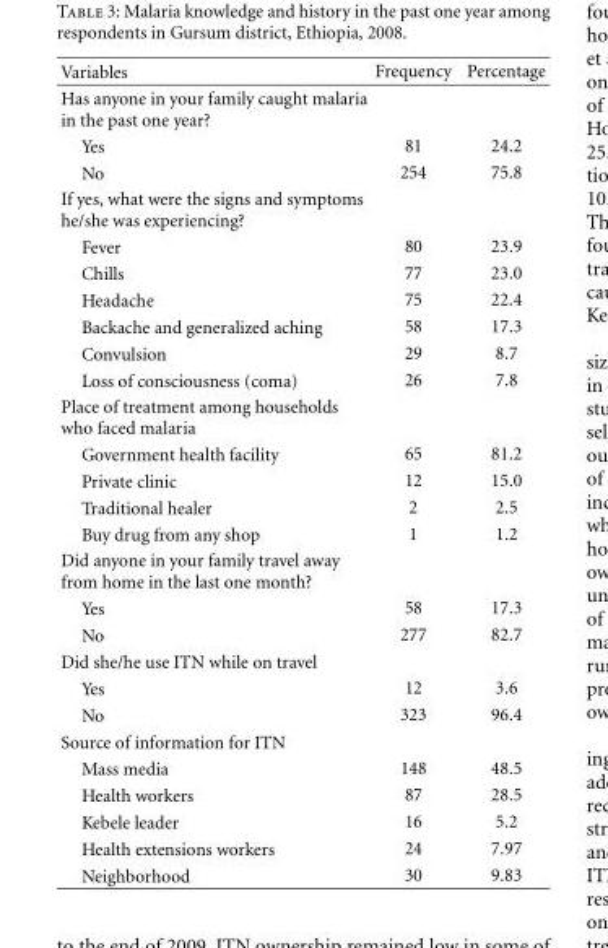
<table><thead><tr><td>Variables</td><td>Frequency</td><td>Percentage</td></tr></thead><tbody><tr><td colspan="3">Has anyone in your family caught malaria in the past one year?</td></tr><tr><td>Yes</td><td>81</td><td>24.2</td></tr><tr><td>No</td><td>254</td><td>75.8</td></tr><tr><td colspan="3">If yes, what were the signs and symptoms he/she was experiencing?</td></tr><tr><td>Fever</td><td>80</td><td>23.9</td></tr><tr><td>Chills</td><td>77</td><td>23.0</td></tr><tr><td>Headache</td><td>75</td><td>22.4</td></tr><tr><td>Backache and generalized aching</td><td>58</td><td>17.3</td></tr><tr><td>Convulsion</td><td>29</td><td>8.7</td></tr><tr><td>Loss of consciousness (coma)</td><td>26</td><td>7.8</td></tr><tr><td colspan="3">Place of treatment among households who faced malaria</td></tr><tr><td>Government health facility</td><td>65</td><td>81.2</td></tr><tr><td>Private clinic</td><td>12</td><td>15.0</td></tr><tr><td>Traditional healer</td><td>2</td><td>2.5</td></tr><tr><td>Buy drug from any shop</td><td>1</td><td>1.2</td></tr><tr><td colspan="3">Did anyone in your family travel away from home in the last one month?</td></tr><tr><td>Yes</td><td>58</td><td>17.3</td></tr><tr><td>No</td><td>277</td><td>82.7</td></tr><tr><td colspan="3">Did she/he use ITN while on travel</td></tr><tr><td>Yes</td><td>12</td><td>3.6</td></tr><tr><td>No</td><td>323</td><td>96.4</td></tr><tr><td colspan="3">Source of information for ITN</td></tr><tr><td>Mass media</td><td>148</td><td>48.5</td></tr><tr><td>Health workers</td><td>87</td><td>28.5</td></tr><tr><td>Kebele leader</td><td>16</td><td>5.2</td></tr><tr><td>Health extensions workers</td><td>24</td><td>7.97</td></tr><tr><td>Neighborhood</td><td>30</td><td>9.83</td></tr></tbody></table>